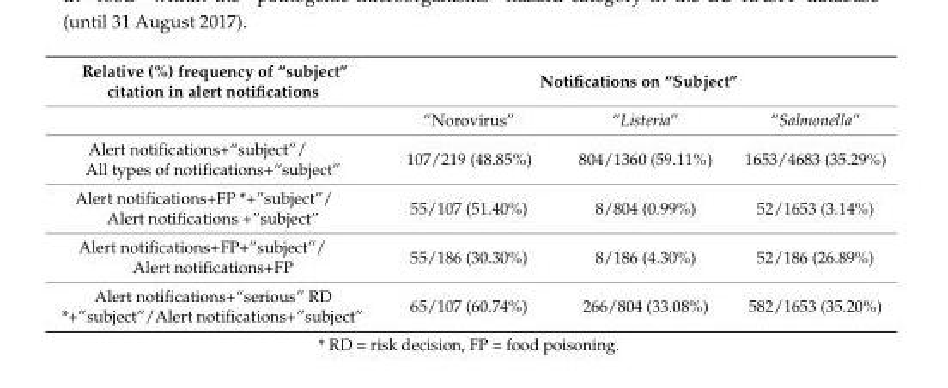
<table><thead><tr><td rowspan="2">Relative (%) frequency of “subject” citation in alert notifications</td><td colspan="3">Notifications on “Subject”</td></tr><tr><td>“Norovirus”</td><td>“Listeria”</td><td>“Salmonella”</td></tr></thead><tbody><tr><td>Alert notifications+“subject”/ All types of notifications+“subject”</td><td>107/219 (48.85%)</td><td>804/1360 (59.11%)</td><td>1653/4683 (35.29%)</td></tr><tr><td>Alert notifications+FP *+”subject”/ Alert notifications +”subject”</td><td>55/107 (51.40%)</td><td>8/804 (0.99%)</td><td>52/1653 (3.14%)</td></tr><tr><td>Alert notifications+FP+”subject”/ Alert notifications+FP</td><td>55/186 (30.30%)</td><td>8/186 (4.30%)</td><td>52/186 (26.89%)</td></tr><tr><td>Alert notifications+“serious” RD *+”subject”/Alert notifications+”subject”</td><td>65/107 (60.74%)</td><td>266/804 (33.08%)</td><td>582/1653 (35.20%)</td></tr></tbody></table>